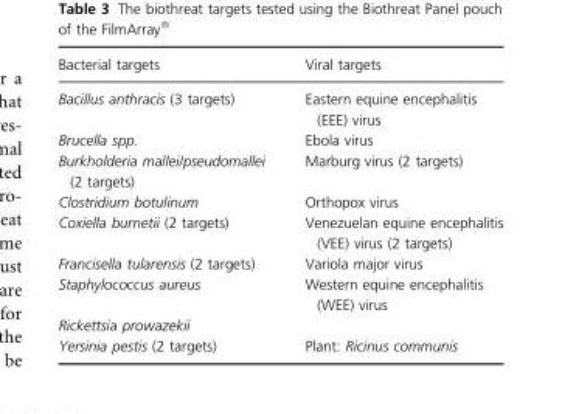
<table><thead><tr><td>Bacterial targets</td><td>Viral targets</td></tr></thead><tbody><tr><td>Bacillus anthracis (3 targets)</td><td>Eastern equine encephalitis (EEE) virus</td></tr><tr><td>Brucella spp.</td><td>Ebola virus</td></tr><tr><td>Burkholderia mallei/pseudomallei (2 targets)</td><td>Marburg virus (2 targets)</td></tr><tr><td>Clostridium botulinum</td><td>Orthopox virus</td></tr><tr><td>Coxiella burnetii (2 targets)</td><td>Venezuelan equine encephalitis (VEE) virus (2 targets)</td></tr><tr><td>Francisella tularensis (2 targets)</td><td>Variola major virus</td></tr><tr><td>Staphylococcus aureus</td><td>Western equine encephalitis (WEE) virus</td></tr><tr><td colspan="2">Rickettsia prowazekii</td></tr><tr><td>Yersinia pestis (2 targets)</td><td>Plant: Ricinus communis</td></tr></tbody></table>